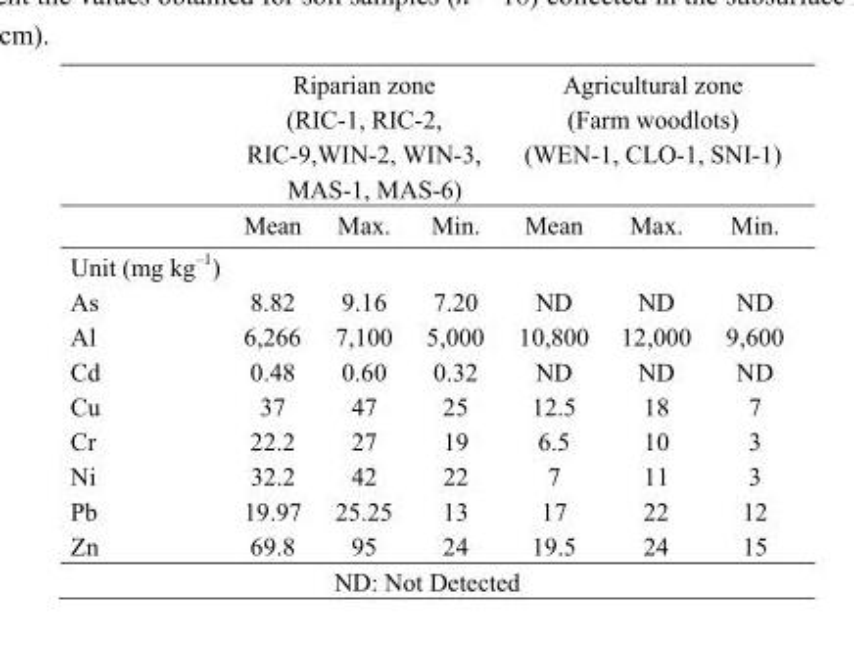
<table><thead><tr><td rowspan="2"></td><td colspan="3">Riparian zone (RIC-1, RIC-2, RIC-9,WIN-2, WIN-3, MAS-1, MAS-6)</td><td colspan="3">Agricultural zone (Farm woodlots) (WEN-1, CLO-1, SNI-1)</td></tr><tr><td>Mean</td><td>Max.</td><td>Min.</td><td>Mean</td><td>Max.</td><td>Min.</td></tr></thead><tbody><tr><td colspan="7">Unit (mg kg<sup>–1</sup>)</td></tr><tr><td>As</td><td>8.82</td><td>9.16</td><td>7.20</td><td>ND</td><td>ND</td><td>ND</td></tr><tr><td>Al</td><td>6,266</td><td>7,100</td><td>5,000</td><td>10,800</td><td>12,000</td><td>9,600</td></tr><tr><td>Cd</td><td>0.48</td><td>0.60</td><td>0.32</td><td>ND</td><td>ND</td><td>ND</td></tr><tr><td>Cu</td><td>37</td><td>47</td><td>25</td><td>12.5</td><td>18</td><td>7</td></tr><tr><td>Cr</td><td>22.2</td><td>27</td><td>19</td><td>6.5</td><td>10</td><td>3</td></tr><tr><td>Ni</td><td>32.2</td><td>42</td><td>22</td><td>7</td><td>11</td><td>3</td></tr><tr><td>Pb</td><td>19.97</td><td>25.25</td><td>13</td><td>17</td><td>22</td><td>12</td></tr><tr><td>Zn</td><td>69.8</td><td>95</td><td>24</td><td>19.5</td><td>24</td><td>15</td></tr><tr><td colspan="7">ND: Not Detected</td></tr></tbody></table>